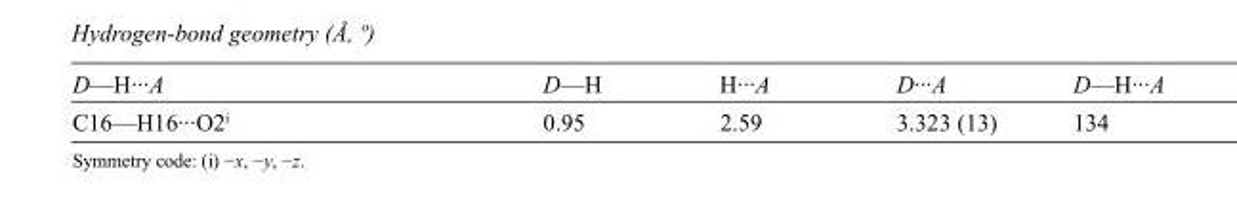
<table><tbody><tr><td>D—H···A</td><td>D—H</td><td>H···A</td><td>D···A</td><td>D—H···A</td></tr><tr><td>C16—H16···O2<sup>i</sup></td><td>0.95</td><td>2.59</td><td>3.323 (13)</td><td>134</td></tr></tbody></table>